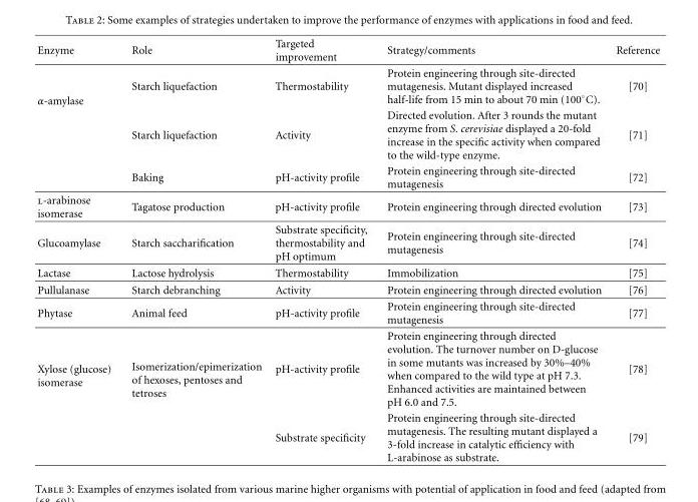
<table><thead><tr><td>Enzyme</td><td>Role</td><td>Targeted improvement</td><td>Strategy/comments</td><td>Reference</td></tr></thead><tbody><tr><td rowspan="3">α-amylase</td><td>Starch liquefaction</td><td>Thermostability</td><td>Protein engineering through site-directed mutagenesis. Mutant displayed increased half-life from 15 min to about 70 min (100◦C).</td><td>[70]</td></tr><tr><td>Starch liquefaction</td><td>Activity</td><td>Directed evolution. After 3 rounds the mutant enzyme from S. cerevisiae displayed a 20-fold increase in the specific activity when compared to the wild-type enzyme.</td><td>[71]</td></tr><tr><td>Baking</td><td>pH-activity profile</td><td>Protein engineering through site-directed mutagenesis</td><td>[72]</td></tr><tr><td>l-arabinose isomerase</td><td>Tagatose production</td><td>pH-activity profile</td><td>Protein engineering through directed evolution</td><td>[73]</td></tr><tr><td>Glucoamylase</td><td>Starch saccharification</td><td>Substrate specificity, thermostability and pH optimum</td><td>Protein engineering through site-directed mutagenesis</td><td>[74]</td></tr><tr><td>Lactase</td><td>Lactose hydrolysis</td><td>Thermostability</td><td>Immobilization</td><td>[75]</td></tr><tr><td>Pullulanase</td><td>Starch debranching</td><td>Activity</td><td>Protein engineering through directed evolution</td><td>[76]</td></tr><tr><td>Phytase</td><td>Animal feed</td><td>pH-activity profile</td><td>Protein engineering through site-directed mutagenesis</td><td>[77]</td></tr><tr><td rowspan="2">Xylose (glucose) isomerase</td><td rowspan="2">Isomerization/epimerization of hexoses, pentoses and tetroses</td><td>pH-activity profile</td><td>Protein engineering through directed evolution. The turnover number on D-glucose in some mutants was increased by 30%–40% when compared to the wild type at pH 7.3. Enhanced activities are maintained between pH 6.0 and 7.5.</td><td>[78]</td></tr><tr><td>Substrate specificity</td><td>Protein engineering through site-directed mutagenesis. The resulting mutant displayed a 3-fold increase in catalytic efficiency with L-arabinose as substrate.</td><td>[79]</td></tr></tbody></table>